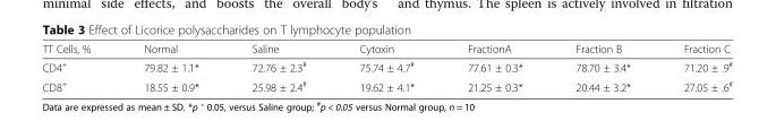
<table><thead><tr><td>TT Cells, %</td><td>Normal</td><td>Saline</td><td>Cytoxin</td><td>FractionA</td><td>Fraction B</td><td>Fraction C</td></tr></thead><tbody><tr><td>CD4<sup>+</sup></td><td>79.82 ± 1.1*</td><td>72.76 ± 2.3<sup>#</sup></td><td>75.74 ± 4.7<sup>#</sup></td><td>77.61 ± 0.3*</td><td>78.70 ± 3.4*</td><td>71.20 ± .9<sup>#</sup></td></tr><tr><td>CD8<sup>+</sup></td><td>18.55 ± 0.9*</td><td>25.98 ± 2.4<sup>#</sup></td><td>19.62 ± 4.1*</td><td>21.25 ± 0.3*</td><td>20.44 ± 3.2*</td><td>27.05 ± .6<sup>#</sup></td></tr></tbody></table>